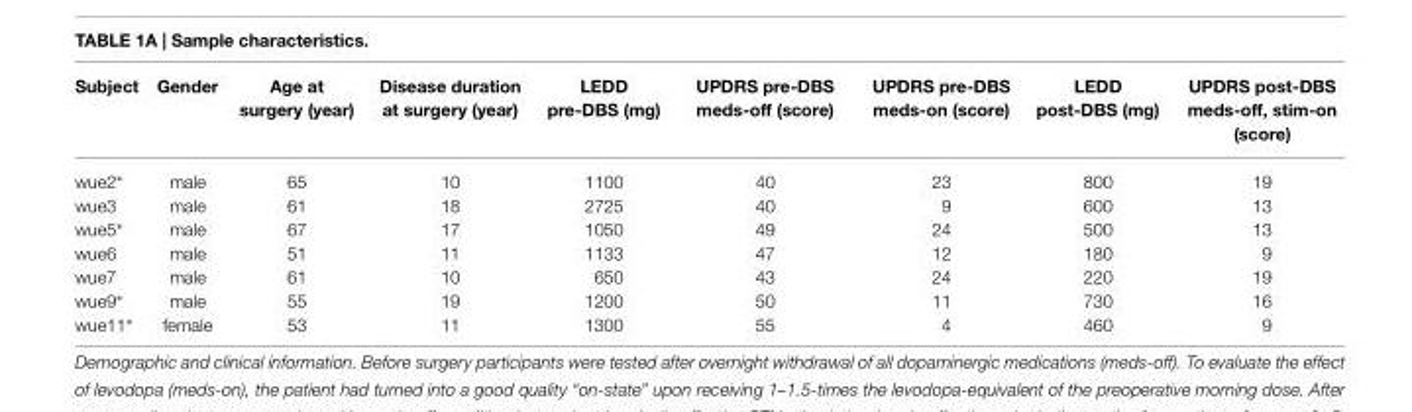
<table><thead><tr><td>Subject</td><td>Gender</td><td>Age at surgery (year)</td><td>Disease duration at surgery (year)</td><td>LEDD pre-DBS (mg)</td><td>UPDRS pre-DBS meds-off (score)</td><td>UPDRS pre-DBS meds-on (score)</td><td>LEDD post-DBS (mg)</td><td>UPDRS post-DBS meds-off, stim-on (score)</td></tr></thead><tbody><tr><td>wue2∗</td><td>male</td><td>65</td><td>10</td><td>1100</td><td>40</td><td>23</td><td>800</td><td>19</td></tr><tr><td>wue3</td><td>male</td><td>61</td><td>18</td><td>2725</td><td>40</td><td>9</td><td>600</td><td>13</td></tr><tr><td>wue5∗</td><td>male</td><td>67</td><td>17</td><td>1050</td><td>49</td><td>24</td><td>500</td><td>13</td></tr><tr><td>wue6</td><td>male</td><td>51</td><td>11</td><td>1133</td><td>47</td><td>12</td><td>180</td><td>9</td></tr><tr><td>wue7</td><td>male</td><td>61</td><td>10</td><td>650</td><td>43</td><td>24</td><td>220</td><td>19</td></tr><tr><td>wue9∗</td><td>male</td><td>55</td><td>19</td><td>1200</td><td>50</td><td>11</td><td>730</td><td>16</td></tr><tr><td>wue11∗</td><td>female</td><td>53</td><td>11</td><td>1300</td><td>55</td><td>4</td><td>460</td><td>9</td></tr></tbody></table>